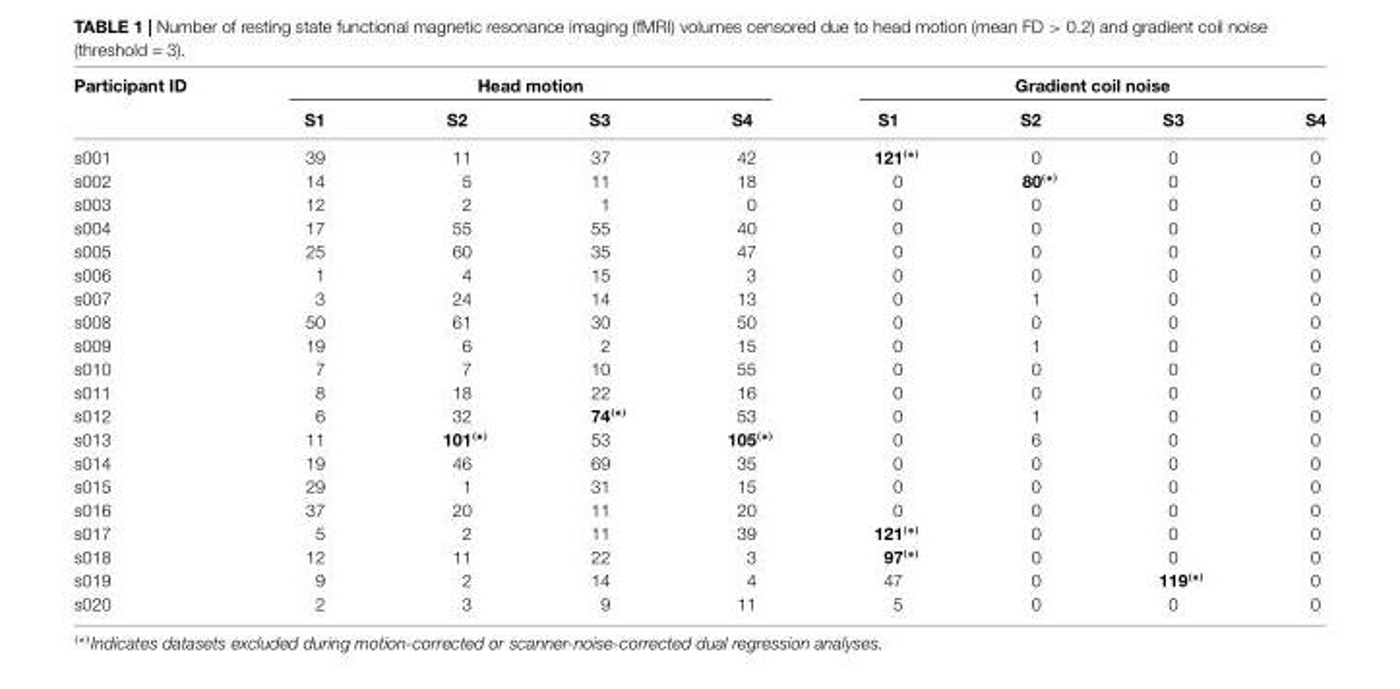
<table><thead><tr><td rowspan="2">Participant ID</td><td colspan="4">Head motion</td><td colspan="4">Gradient coil noise</td></tr><tr><td>S1</td><td>S2</td><td>S3</td><td>S4</td><td>S1</td><td>S2</td><td>S3</td><td>S4</td></tr></thead><tbody><tr><td>s001</td><td>39</td><td>11</td><td>37</td><td>42</td><td>121(∗)</td><td>0</td><td>0</td><td>0</td></tr><tr><td>s002</td><td>14</td><td>5</td><td>11</td><td>18</td><td>0</td><td>80(∗)</td><td>0</td><td>0</td></tr><tr><td>s003</td><td>12</td><td>2</td><td>1</td><td>0</td><td>0</td><td>0</td><td>0</td><td>0</td></tr><tr><td>s004</td><td>17</td><td>55</td><td>55</td><td>40</td><td>0</td><td>0</td><td>0</td><td>0</td></tr><tr><td>s005</td><td>25</td><td>60</td><td>35</td><td>47</td><td>0</td><td>0</td><td>0</td><td>0</td></tr><tr><td>s006</td><td>1</td><td>4</td><td>15</td><td>3</td><td>0</td><td>0</td><td>0</td><td>0</td></tr><tr><td>s007</td><td>3</td><td>24</td><td>14</td><td>13</td><td>0</td><td>1</td><td>0</td><td>0</td></tr><tr><td>s008</td><td>50</td><td>61</td><td>30</td><td>50</td><td>0</td><td>0</td><td>0</td><td>0</td></tr><tr><td>s009</td><td>19</td><td>6</td><td>2</td><td>15</td><td>0</td><td>1</td><td>0</td><td>0</td></tr><tr><td>s010</td><td>7</td><td>7</td><td>10</td><td>55</td><td>0</td><td>0</td><td>0</td><td>0</td></tr><tr><td>s011</td><td>8</td><td>18</td><td>22</td><td>16</td><td>0</td><td>0</td><td>0</td><td>0</td></tr><tr><td>s012</td><td>6</td><td>32</td><td>74(∗)</td><td>53</td><td>0</td><td>1</td><td>0</td><td>0</td></tr><tr><td>s013</td><td>11</td><td>101(∗)</td><td>53</td><td>105(∗)</td><td>0</td><td>6</td><td>0</td><td>0</td></tr><tr><td>s014</td><td>19</td><td>46</td><td>69</td><td>35</td><td>0</td><td>0</td><td>0</td><td>0</td></tr><tr><td>s015</td><td>29</td><td>1</td><td>31</td><td>15</td><td>0</td><td>0</td><td>0</td><td>0</td></tr><tr><td>s016</td><td>37</td><td>20</td><td>11</td><td>20</td><td>0</td><td>0</td><td>0</td><td>0</td></tr><tr><td>s017</td><td>5</td><td>2</td><td>11</td><td>39</td><td>121(∗)</td><td>0</td><td>0</td><td>0</td></tr><tr><td>s018</td><td>12</td><td>11</td><td>22</td><td>3</td><td>97(∗)</td><td>0</td><td>0</td><td>0</td></tr><tr><td>s019</td><td>9</td><td>2</td><td>14</td><td>4</td><td>47</td><td>0</td><td>119(∗)</td><td>0</td></tr><tr><td>s020</td><td>2</td><td>3</td><td>9</td><td>11</td><td>5</td><td>0</td><td>0</td><td>0</td></tr></tbody></table>